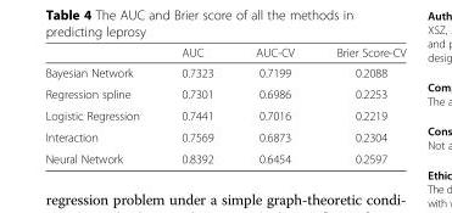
<table><thead><tr><td></td><td>AUC</td><td>AUC-CV</td><td>Brier Score-CV</td></tr></thead><tbody><tr><td>Bayesian Network</td><td>0.7323</td><td>0.7199</td><td>0.2088</td></tr><tr><td>Regression spline</td><td>0.7301</td><td>0.6986</td><td>0.2253</td></tr><tr><td>Logistic Regression</td><td>0.7441</td><td>0.7016</td><td>0.2219</td></tr><tr><td>Interaction</td><td>0.7569</td><td>0.6873</td><td>0.2304</td></tr><tr><td>Neural Network</td><td>0.8392</td><td>0.6454</td><td>0.2597</td></tr></tbody></table>